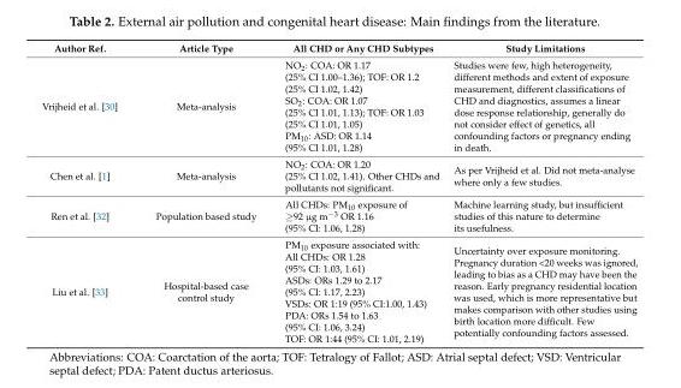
<table><thead><tr><td>Author Ref.</td><td>Article Type</td><td>All CHD or Any CHD Subtypes</td><td>Study Limitations</td></tr></thead><tbody><tr><td>Vrijheid et al. [30]</td><td>Meta-analysis</td><td>NO<sub>2</sub>: COA: OR 1.17 (25% CI 1.00–1.36); TOF: OR 1.2 (25% CI 1.02, 1.42) SO<sub>2</sub>: COA: OR 1.07 (25% CI 1.01, 1.13); TOF: OR 1.03 (25% CI 1.01, 1.05) PM<sub>10</sub>: ASD: OR 1.14 (95% CI 1.01, 1.28)</td><td>Studies were few, high heterogeneity, different methods and extent of exposure measurement, different classifications of CHD and diagnostics, assumes a linear dose response relationship, generally do not consider effect of genetics, all confounding factors or pregnancy ending in death.</td></tr><tr><td>Chen et al. [1]</td><td>Meta-analysis</td><td>NO<sub>2</sub>: COA: OR 1.20 (25% CI 1.02, 1.41). Other CHDs and pollutants not significant.</td><td>As per Vrijheid et al. Did not meta-analyse where only a few studies.</td></tr><tr><td>Ren et al. [32]</td><td>Population based study</td><td>All CHDs: PM<sub>10</sub> exposure of ≥92 µg m<sup>−3</sup> OR 1.16 (95% CI: 1.06, 1.28)</td><td>Machine learning study, but insufficient studies of this nature to determine its usefulness.</td></tr><tr><td>Liu et al. [33]</td><td>Hospital-based case control study</td><td>PM<sub>10</sub> exposure associated with: All CHDs: OR 1.28 (95% CI: 1.03, 1.61) ASDs: ORs 1.29 to 2.17 (95% CI: 1.17, 2.23) VSDs: OR 1:19 (95% CI:1.00, 1.43) PDA: ORs 1.54 to 1.63 (95% CI: 1.06, 3.24) TOF: OR 1:44 (95% CI: 1.01, 2.19)</td><td>Uncertainty over exposure monitoring. Pregnancy duration &lt;20 weeks was ignored, leading to bias as a CHD may have been the reason. Early pregnancy residential location was used, which is more representative but makes comparison with other studies using birth location more difficult. Few potentially confounding factors assessed.</td></tr></tbody></table>